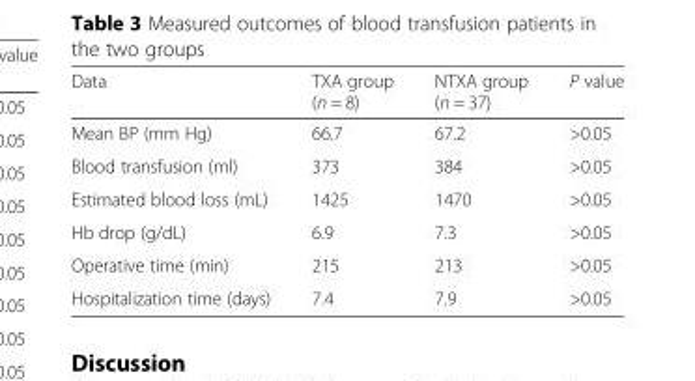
<table><thead><tr><td>Data</td><td>TXA group (n = 8)</td><td>NTXA group (n = 37)</td><td>P value</td></tr></thead><tbody><tr><td>Mean BP (mm Hg)</td><td>66.7</td><td>67.2</td><td>&gt;0.05</td></tr><tr><td>Blood transfusion (ml)</td><td>373</td><td>384</td><td>&gt;0.05</td></tr><tr><td>Estimated blood loss (mL)</td><td>1425</td><td>1470</td><td>&gt;0.05</td></tr><tr><td>Hb drop (g/dL)</td><td>6.9</td><td>7.3</td><td>&gt;0.05</td></tr><tr><td>Operative time (min)</td><td>215</td><td>213</td><td>&gt;0.05</td></tr><tr><td>Hospitalization time (days)</td><td>7.4</td><td>7.9</td><td>&gt;0.05</td></tr></tbody></table>